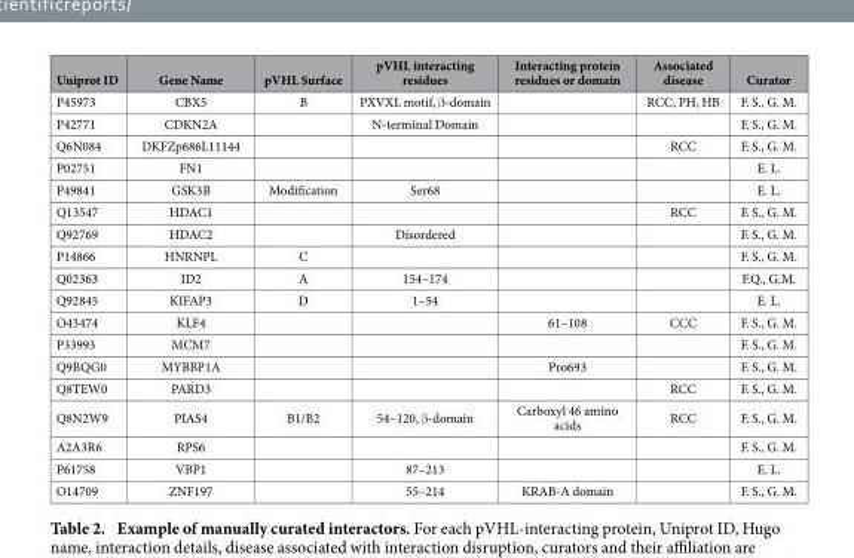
<table><thead><tr><td>Uniprot ID</td><td>Gene Name</td><td>pVHL Surface</td><td>pVHL interacting residues</td><td>Interacting protein residues or domain</td><td>Associated disease</td><td>Curator</td></tr></thead><tbody><tr><td>P45973</td><td>CBX5</td><td>B</td><td>PXVXL motif, β -domain</td><td></td><td>RCC, PH, HB</td><td>F. S., G. M.</td></tr><tr><td>P42771</td><td>CDKN2A</td><td></td><td>N-terminal Domain</td><td></td><td></td><td>F. S., G. M.</td></tr><tr><td>Q6N084</td><td>DKFZp686L11144</td><td></td><td></td><td></td><td>RCC</td><td>F. S., G. M.</td></tr><tr><td>P02751</td><td>FN1</td><td></td><td></td><td></td><td></td><td>E. L.</td></tr><tr><td>P49841</td><td>GSK3B</td><td>Modification</td><td>Ser68</td><td></td><td></td><td>E. L.</td></tr><tr><td>Q13547</td><td>HDAC1</td><td></td><td></td><td></td><td>RCC</td><td>F. S., G. M.</td></tr><tr><td>Q92769</td><td>HDAC2</td><td></td><td>Disordered</td><td></td><td></td><td>F. S., G. M.</td></tr><tr><td>P14866</td><td>HNRNPL</td><td>C</td><td></td><td></td><td></td><td>F. S., G. M.</td></tr><tr><td>Q02363</td><td>ID2</td><td>A</td><td>154–174</td><td></td><td></td><td>F.Q., G.M.</td></tr><tr><td>Q92845</td><td>KIFAP3</td><td>D</td><td>1–54</td><td></td><td></td><td>E. L.</td></tr><tr><td>O43474</td><td>KLF4</td><td></td><td></td><td>61–108</td><td>CCC</td><td>F. S., G. M.</td></tr><tr><td>P33993</td><td>MCM7</td><td></td><td></td><td></td><td></td><td>F. S., G. M.</td></tr><tr><td>Q9BQG0</td><td>MYBBP1A</td><td></td><td></td><td>Pro693</td><td></td><td>F. S., G. M.</td></tr><tr><td>Q8TEW0</td><td>PARD3</td><td></td><td></td><td></td><td>RCC</td><td>F. S., G. M.</td></tr><tr><td>Q8N2W9</td><td>PIAS4</td><td>B1/B2</td><td>54–120, β -domain</td><td>Carboxyl 46 amino acids</td><td>RCC</td><td>F. S., G. M.</td></tr><tr><td>A2A3R6</td><td>RPS6</td><td></td><td></td><td></td><td></td><td>F. S., G. M.</td></tr><tr><td>P61758</td><td>VBP1</td><td></td><td>87–213</td><td></td><td></td><td>E. L.</td></tr><tr><td>O14709</td><td>ZNF197</td><td></td><td>55–214</td><td>KRAB-A domain</td><td></td><td>F. S., G. M.</td></tr></tbody></table>